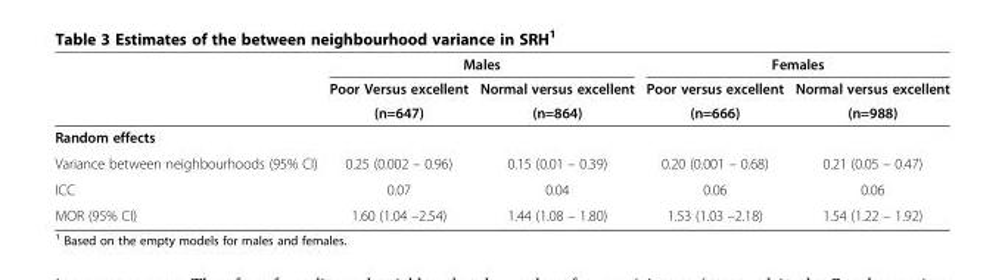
<table><thead><tr><td rowspan="3"></td><td colspan="2">Males</td><td colspan="2">Females</td></tr><tr><td rowspan="2">Poor Versus excellent (n=647)</td><td rowspan="2">Normal versus excellent (n=864)</td><td rowspan="2">Poor versus excellent (n=666)</td><td rowspan="2">Normal versus excellent (n=988)</td></tr><tr></tr></thead><tbody><tr><td colspan="5">Random effects</td></tr><tr><td>Variance between neighbourhoods (95% CI)</td><td>0.25 (0.002 – 0.96)</td><td>0.15 (0.01 – 0.39)</td><td>0.20 (0.001 – 0.68)</td><td>0.21 (0.05 – 0.47)</td></tr><tr><td>ICC</td><td>0.07</td><td>0.04</td><td>0.06</td><td>0.06</td></tr><tr><td>MOR (95% CI)</td><td>1.60 (1.04 –2.54)</td><td>1.44 (1.08 – 1.80)</td><td>1.53 (1.03 –2.18)</td><td>1.54 (1.22 – 1.92)</td></tr></tbody></table>